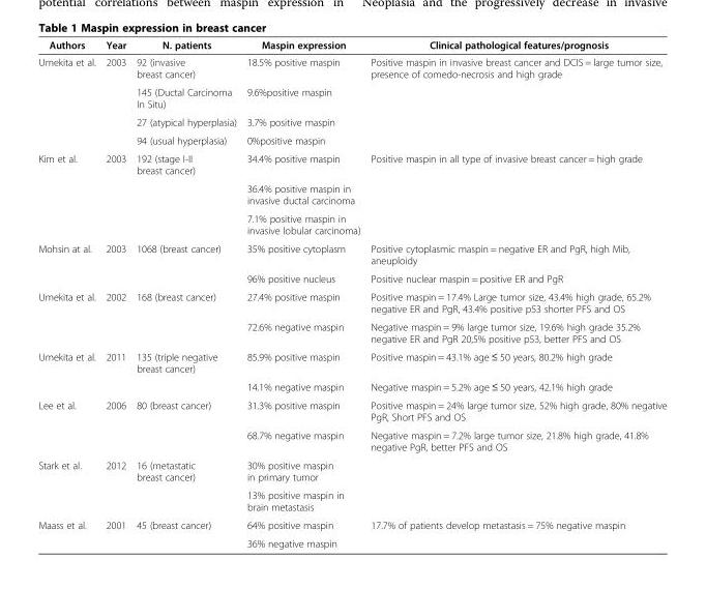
<table><thead><tr><td>Authors</td><td>Year</td><td>N. patients</td><td>Maspin expression</td><td>Clinical pathological features/prognosis</td></tr></thead><tbody><tr><td rowspan="4">Umekita et al.</td><td>2003</td><td>92 (invasive breast cancer)</td><td>18.5% positive maspin</td><td>Positive maspin in invasive breast cancer and DCIS = large tumor size, presence of comedo-necrosis and high grade</td></tr><tr><td></td><td>145 (Ductal Carcinoma In Situ)</td><td>9.6%positive maspin</td><td></td></tr><tr><td></td><td>27 (atypical hyperplasia)</td><td>3.7% positive maspin</td><td></td></tr><tr><td></td><td>94 (usual hyperplasia)</td><td>0%positive maspin</td><td></td></tr><tr><td rowspan="3">Kim et al.</td><td>2003</td><td>192 (stage I-II breast cancer)</td><td>34.4% positive maspin</td><td>Positive maspin in all type of invasive breast cancer = high grade</td></tr><tr><td></td><td></td><td>36.4% positive maspin in invasive ductal carcinoma</td><td></td></tr><tr><td></td><td></td><td>7.1% positive maspin in invasive lobular carcinoma)</td><td></td></tr><tr><td rowspan="2">Mohsin at al.</td><td>2003</td><td>1068 (breast cancer)</td><td>35% positive cytoplasm</td><td>Positive cytoplasmic maspin = negative ER and PgR, high Mib, aneuploidy</td></tr><tr><td></td><td></td><td>96% positive nucleus</td><td>Positive nuclear maspin = positive ER and PgR</td></tr><tr><td rowspan="2">Umekita et al.</td><td>2002</td><td>168 (breast cancer)</td><td>27.4% positive maspin</td><td>Positive maspin = 17.4% Large tumor size, 43.4% high grade, 65.2% negative ER and PgR, 43.4% positive p53 shorter PFS and OS</td></tr><tr><td></td><td></td><td>72.6% negative maspin</td><td>Negative maspin = 9% large tumor size, 19.6% high grade 35.2% negative ER and PgR 20,5% positive p53, better PFS and OS</td></tr><tr><td rowspan="2">Umekita et al.</td><td>2011</td><td>135 (triple negative breast cancer)</td><td>85.9% positive maspin</td><td>Positive maspin = 43.1% age ≤ 50 years, 80.2% high grade</td></tr><tr><td></td><td></td><td>14.1% negative maspin</td><td>Negative maspin = 5.2% age ≤ 50 years, 42.1% high grade</td></tr><tr><td rowspan="2">Lee et al.</td><td>2006</td><td>80 (breast cancer)</td><td>31.3% positive maspin</td><td>Positive maspin = 24% large tumor size, 52% high grade, 80% negative PgR, Short PFS and OS</td></tr><tr><td></td><td></td><td>68.7% negative maspin</td><td>Negative maspin = 7.2% large tumor size, 21.8% high grade, 41.8% negative PgR, better PFS and OS</td></tr><tr><td rowspan="2">Stark et al.</td><td>2012</td><td>16 (metastatic breast cancer)</td><td>30% positive maspin in primary tumor</td><td></td></tr><tr><td></td><td></td><td>13% positive maspin in brain metastasis</td><td></td></tr><tr><td rowspan="2">Maass et al.</td><td>2001</td><td>45 (breast cancer)</td><td>64% positive maspin</td><td>17.7% of patients develop metastasis = 75% negative maspin</td></tr><tr><td></td><td></td><td>36% negative maspin</td><td></td></tr></tbody></table>